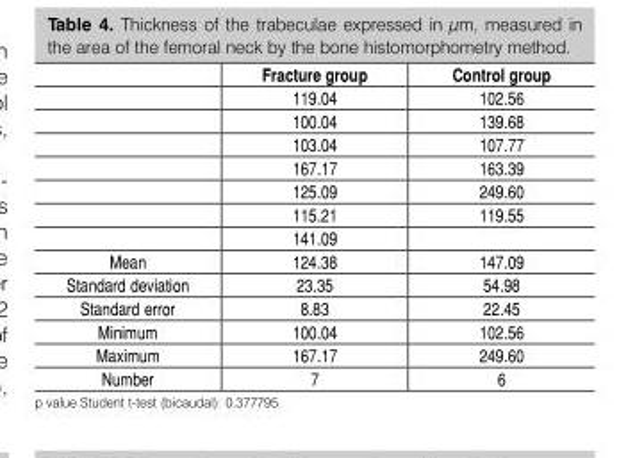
<table><thead><tr><td></td><td>Fracture group</td><td>Control group</td></tr></thead><tbody><tr><td></td><td>119.04</td><td>102.56</td></tr><tr><td></td><td>100.04</td><td>139.68</td></tr><tr><td></td><td>103.04</td><td>107.77</td></tr><tr><td></td><td>167.17</td><td>163.39</td></tr><tr><td></td><td>125.09</td><td>249.60</td></tr><tr><td></td><td>115.21</td><td>119.55</td></tr><tr><td></td><td>141.09</td><td></td></tr><tr><td>Mean</td><td>124.38</td><td>147.09</td></tr><tr><td>Standard deviation</td><td>23.35</td><td>54.98</td></tr><tr><td>Standard error</td><td>8.83</td><td>22.45</td></tr><tr><td>Minimum</td><td>100.04</td><td>102.56</td></tr><tr><td>Maximum</td><td>167.17</td><td>249.60</td></tr><tr><td>Number</td><td>7</td><td>6</td></tr></tbody></table>